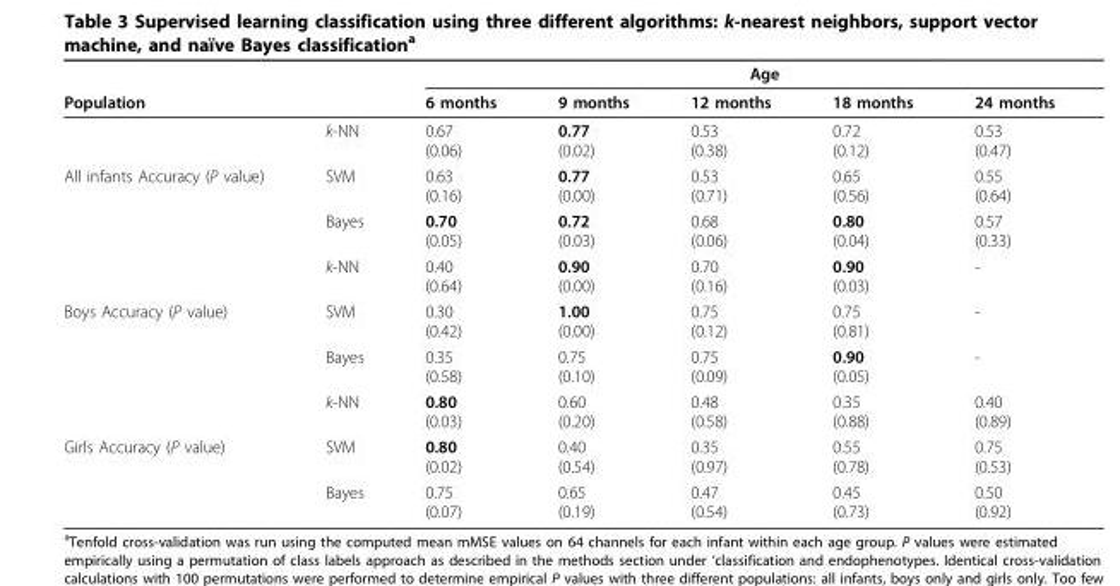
<table><thead><tr><td rowspan="2">Population</td><td rowspan="2"></td><td colspan="5">Age</td></tr><tr><td>6 months</td><td>9 months</td><td>12 months</td><td>18 months</td><td>24 months</td></tr></thead><tbody><tr><td></td><td>k-NN</td><td>0.67 (0.06)</td><td>0.77 (0.02)</td><td>0.53 (0.38)</td><td>0.72 (0.12)</td><td>0.53 (0.47)</td></tr><tr><td rowspan="3">All infants Accuracy (P value)</td><td>SVM</td><td>0.63 (0.16)</td><td>0.77 (0.00)</td><td>0.53 (0.71)</td><td>0.65 (0.56)</td><td>0.55 (0.64)</td></tr><tr><td>Bayes</td><td>0.70 (0.05)</td><td>0.72 (0.03)</td><td>0.68 (0.06)</td><td>0.80 (0.04)</td><td>0.57 (0.33)</td></tr><tr><td>k-NN</td><td>0.40 (0.64)</td><td>0.90 (0.00)</td><td>0.70 (0.16)</td><td>0.90 (0.03)</td><td>-</td></tr><tr><td rowspan="3">Boys Accuracy (P value)</td><td>SVM</td><td>0.30 (0.42)</td><td>1.00 (0.00)</td><td>0.75 (0.12)</td><td>0.75 (0.81)</td><td>-</td></tr><tr><td>Bayes</td><td>0.35 (0.58)</td><td>0.75 (0.10)</td><td>0.75 (0.09)</td><td>0.90 (0.05)</td><td>-</td></tr><tr><td>k-NN</td><td>0.80 (0.03)</td><td>0.60 (0.20)</td><td>0.48 (0.58)</td><td>0.35 (0.88)</td><td>0.40 (0.89)</td></tr><tr><td rowspan="2">Girls Accuracy (P value)</td><td>SVM</td><td>0.80 (0.02)</td><td>0.40 (0.54)</td><td>0.35 (0.97)</td><td>0.55 (0.78)</td><td>0.75 (0.53)</td></tr><tr><td>Bayes</td><td>0.75 (0.07)</td><td>0.65 (0.19)</td><td>0.47 (0.54)</td><td>0.45 (0.73)</td><td>0.50 (0.92)</td></tr></tbody></table>